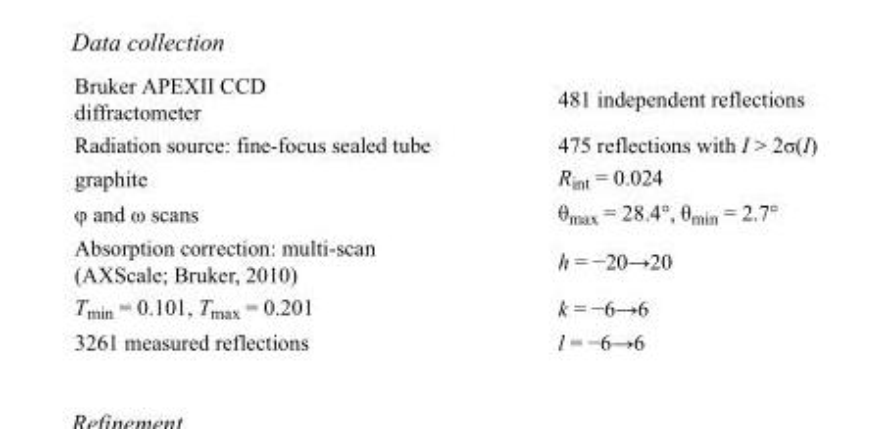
<table><tbody><tr><td>Bruker APEXII CCD diffractometer</td><td>481 independent reflections</td></tr><tr><td>Radiation source: fine-focus sealed tube</td><td>475 reflections with I &gt; 2σ(I)</td></tr><tr><td>graphite</td><td>R<sub>int</sub> = 0.024</td></tr><tr><td>φ and ω scans</td><td>θ<sub>max</sub> = 28.4°, θ<sub>min</sub> = 2.7°</td></tr><tr><td>Absorption correction: multi-scan (AXScale; Bruker, 2010)</td><td>h = −20→20</td></tr><tr><td>T<sub>min</sub> = 0.101, T<sub>max</sub> = 0.201</td><td>k = −6→6</td></tr><tr><td>3261 measured reflections</td><td>l = −6→6</td></tr></tbody></table>